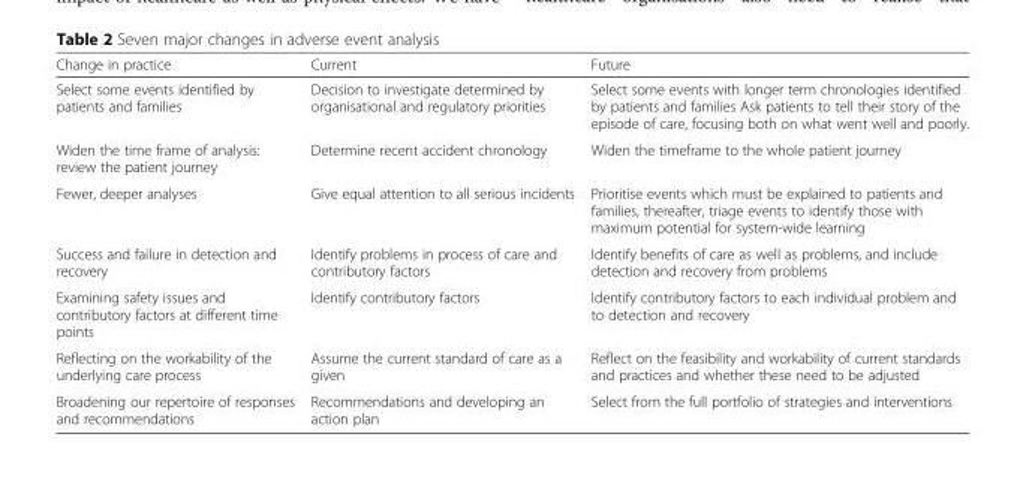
<table><thead><tr><td>Change in practice</td><td>Current</td><td>Future</td></tr></thead><tbody><tr><td>Select some events identified by patients and families</td><td>Decision to investigate determined by organisational and regulatory priorities</td><td>Select some events with longer term chronologies identified by patients and families Ask patients to tell their story of the episode of care, focusing both on what went well and poorly.</td></tr><tr><td>Widen the time frame of analysis: review the patient journey</td><td>Determine recent accident chronology</td><td>Widen the timeframe to the whole patient journey</td></tr><tr><td>Fewer, deeper analyses</td><td>Give equal attention to all serious incidents</td><td>Prioritise events which must be explained to patients and families, thereafter, triage events to identify those with maximum potential for system-wide learning</td></tr><tr><td>Success and failure in detection and recovery</td><td>Identify problems in process of care and contributory factors</td><td>Identify benefits of care as well as problems, and include detection and recovery from problems</td></tr><tr><td>Examining safety issues and contributory factors at different time points</td><td>Identify contributory factors</td><td>Identify contributory factors to each individual problem and to detection and recovery</td></tr><tr><td>Reflecting on the workability of the underlying care process</td><td>Assume the current standard of care as a given</td><td>Reflect on the feasibility and workability of current standards and practices and whether these need to be adjusted</td></tr><tr><td>Broadening our repertoire of responses and recommendations</td><td>Recommendations and developing an action plan</td><td>Select from the full portfolio of strategies and interventions</td></tr></tbody></table>